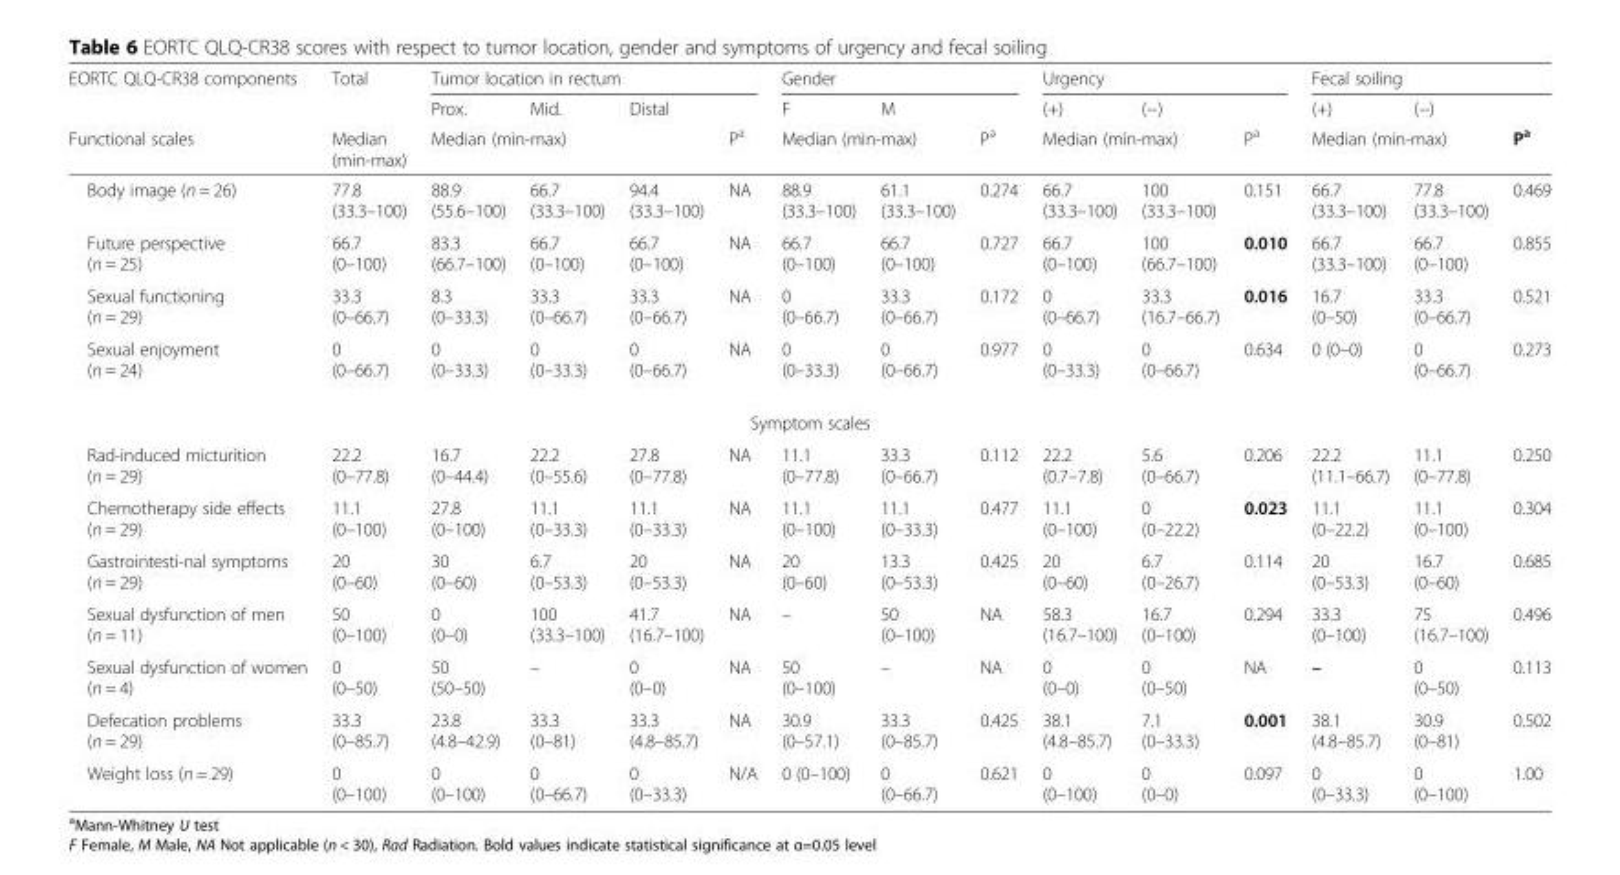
<table><thead><tr><td rowspan="3">EORTC QLQ-CR38 components Functional scales</td><td rowspan="3">Total Median (min-max)</td><td colspan="4">Tumor location in rectum</td><td colspan="3">Gender</td><td colspan="3">Urgency</td><td colspan="3">Fecal soiling</td></tr><tr><td>Prox.</td><td>Mid.</td><td>Distal</td><td rowspan="2">Pa</td><td>F</td><td>M</td><td rowspan="2">Pa</td><td>(+)</td><td>(−)</td><td rowspan="2">Pa</td><td>(+)</td><td>(−)</td><td rowspan="2">Pa</td></tr><tr><td colspan="3">Median (min-max)</td><td colspan="2">Median (min-max)</td><td colspan="2">Median (min-max)</td><td colspan="2">Median (min-max)</td></tr></thead><tbody><tr><td>Body image (n = 26)</td><td>77.8 (33.3–100)</td><td>88.9 (55.6–100)</td><td>66.7 (33.3–100)</td><td>94.4 (33.3–100)</td><td>NA</td><td>88.9 (33.3–100)</td><td>61.1 (33.3–100)</td><td>0.274</td><td>66.7 (33.3–100)</td><td>100 (33.3–100)</td><td>0.151</td><td>66.7 (33.3–100)</td><td>77.8 (33.3–100)</td><td>0.469</td></tr><tr><td>Future perspective (n = 25)</td><td>66.7 (0–100)</td><td>83.3 (66.7–100)</td><td>66.7 (0–100)</td><td>66.7 (0–100)</td><td>NA</td><td>66.7 (0–100)</td><td>66.7 (0–100)</td><td>0.727</td><td>66.7 (0–100)</td><td>100 (66.7–100)</td><td>0.010</td><td>66.7 (33.3–100)</td><td>66.7 (0–100)</td><td>0.855</td></tr><tr><td>Sexual functioning (n = 29)</td><td>33.3 (0–66.7)</td><td>8.3 (0–33.3)</td><td>33.3 (0–66.7)</td><td>33.3 (0–66.7)</td><td>NA</td><td>0 (0–66.7)</td><td>33.3 (0–66.7)</td><td>0.172</td><td>0 (0–66.7)</td><td>33.3 (16.7–66.7)</td><td>0.016</td><td>16.7 (0–50)</td><td>33.3 (0–66.7)</td><td>0.521</td></tr><tr><td>Sexual enjoyment (n = 24)</td><td>0 (0–66.7)</td><td>0 (0–33.3)</td><td>0 (0–33.3)</td><td>0 (0–66.7)</td><td>NA</td><td>0 (0–33.3)</td><td>0 (0–66.7)</td><td>0.977</td><td>0 (0–33.3)</td><td>0 (0–66.7)</td><td>0.634</td><td>0 (0–0)</td><td>0 (0–66.7)</td><td>0.273</td></tr><tr><td colspan="15">Symptom scales</td></tr><tr><td>Rad-induced micturition (n = 29)</td><td>22.2 (0–77.8)</td><td>16.7 (0–44.4)</td><td>22.2 (0–55.6)</td><td>27.8 (0–77.8)</td><td>NA</td><td>11.1 (0–77.8)</td><td>33.3 (0–66.7)</td><td>0.112</td><td>22.2 (0.7–7.8)</td><td>5.6 (0–66.7)</td><td>0.206</td><td>22.2 (11.1–66.7)</td><td>11.1 (0–77.8)</td><td>0.250</td></tr><tr><td>Chemotherapy side effects (n = 29)</td><td>11.1 (0–100)</td><td>27.8 (0–100)</td><td>11.1 (0–33.3)</td><td>11.1 (0–33.3)</td><td>NA</td><td>11.1 (0–100)</td><td>11.1 (0–33.3)</td><td>0.477</td><td>11.1 (0–100)</td><td>0 (0–22.2)</td><td>0.023</td><td>11.1 (0–22.2)</td><td>11.1 (0–100)</td><td>0.304</td></tr><tr><td>Gastrointesti-nal symptoms (n = 29)</td><td>20 (0–60)</td><td>30 (0–60)</td><td>6.7 (0–53.3)</td><td>20 (0–53.3)</td><td>NA</td><td>20 (0–60)</td><td>13.3 (0–53.3)</td><td>0.425</td><td>20 (0–60)</td><td>6.7 (0–26.7)</td><td>0.114</td><td>20 (0–53.3)</td><td>16.7 (0–60)</td><td>0.685</td></tr><tr><td>Sexual dysfunction of men (n = 11)</td><td>50 (0–100)</td><td>0 (0–0)</td><td>100 (33.3–100)</td><td>41.7 (16.7–100)</td><td>NA</td><td>–</td><td>50 (0–100)</td><td>NA</td><td>58.3 (16.7–100)</td><td>16.7 (0–100)</td><td>0.294</td><td>33.3 (0–100)</td><td>75 (16.7–100)</td><td>0.496</td></tr><tr><td>Sexual dysfunction of women (n = 4)</td><td>0 (0–50)</td><td>50 (50–50)</td><td>–</td><td>0 (0–0)</td><td>NA</td><td>50 (0–100)</td><td>–</td><td>NA</td><td>0 (0–0)</td><td>0 (0–50)</td><td>NA</td><td>–</td><td>0 (0–50)</td><td>0.113</td></tr><tr><td>Defecation problems (n = 29)</td><td>33.3 (0–85.7)</td><td>23.8 (4.8–42.9)</td><td>33.3 (0–81)</td><td>33.3 (4.8–85.7)</td><td>NA</td><td>30.9 (0–57.1)</td><td>33.3 (0–85.7)</td><td>0.425</td><td>38.1 (4.8–85.7)</td><td>7.1 (0–33.3)</td><td>0.001</td><td>38.1 (4.8–85.7)</td><td>30.9 (0–81)</td><td>0.502</td></tr><tr><td>Weight loss (n = 29)</td><td>0 (0–100)</td><td>0 (0–100)</td><td>0 (0–66.7)</td><td>0 (0–33.3)</td><td>N/A</td><td>0 (0–100)</td><td>0 (0–66.7)</td><td>0.621</td><td>0 (0–100)</td><td>0 (0–0)</td><td>0.097</td><td>0 (0–33.3)</td><td>0 (0–100)</td><td>1.00</td></tr></tbody></table>